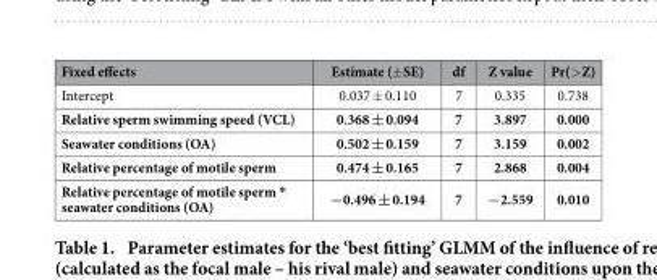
<table><thead><tr><td>Fixed effects</td><td>Estimate (± SE)</td><td>df</td><td>Z value</td><td>Pr(&gt; Z)</td></tr></thead><tbody><tr><td>Intercept</td><td>0.037 ± 0.110</td><td>7</td><td>0.335</td><td>0.738</td></tr><tr><td>Relative sperm swimming speed (VCL)</td><td>0.368 ± 0.094</td><td>7</td><td>3.897</td><td>0.000</td></tr><tr><td>Seawater conditions (OA)</td><td>0.502 ± 0.159</td><td>7</td><td>3.159</td><td>0.002</td></tr><tr><td>Relative percentage of motile sperm</td><td>0.474 ± 0.165</td><td>7</td><td>2.868</td><td>0.004</td></tr><tr><td>Relative percentage of motile sperm * seawater conditions (OA)</td><td>−0.496 ± 0.194</td><td>7</td><td>−2.559</td><td>0.010</td></tr></tbody></table>